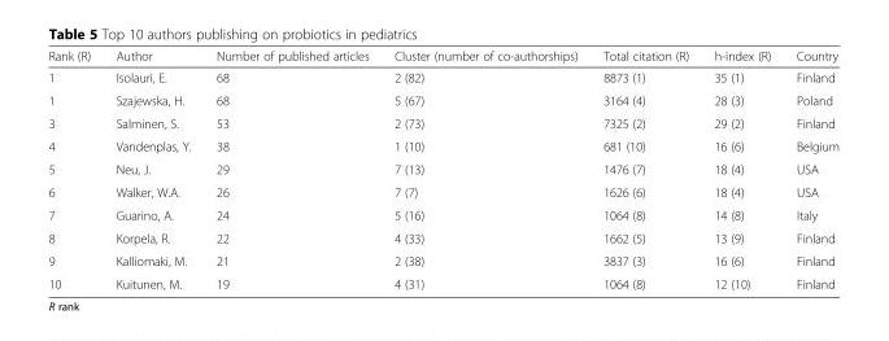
<table><thead><tr><td>Rank (R)</td><td>Author</td><td>Number of published articles</td><td>Cluster (number of co-authorships)</td><td>Total citation (R)</td><td>h-index (R)</td><td>Country</td></tr></thead><tbody><tr><td>1</td><td>Isolauri, E.</td><td>68</td><td>2 (82)</td><td>8873 (1)</td><td>35 (1)</td><td>Finland</td></tr><tr><td>1</td><td>Szajewska, H.</td><td>68</td><td>5 (67)</td><td>3164 (4)</td><td>28 (3)</td><td>Poland</td></tr><tr><td>3</td><td>Salminen, S.</td><td>53</td><td>2 (73)</td><td>7325 (2)</td><td>29 (2)</td><td>Finland</td></tr><tr><td>4</td><td>Vandenplas, Y.</td><td>38</td><td>1 (10)</td><td>681 (10)</td><td>16 (6)</td><td>Belgium</td></tr><tr><td>5</td><td>Neu, J.</td><td>29</td><td>7 (13)</td><td>1476 (7)</td><td>18 (4)</td><td>USA</td></tr><tr><td>6</td><td>Walker, W.A.</td><td>26</td><td>7 (7)</td><td>1626 (6)</td><td>18 (4)</td><td>USA</td></tr><tr><td>7</td><td>Guarino, A.</td><td>24</td><td>5 (16)</td><td>1064 (8)</td><td>14 (8)</td><td>Italy</td></tr><tr><td>8</td><td>Korpela, R.</td><td>22</td><td>4 (33)</td><td>1662 (5)</td><td>13 (9)</td><td>Finland</td></tr><tr><td>9</td><td>Kalliomaki, M.</td><td>21</td><td>2 (38)</td><td>3837 (3)</td><td>16 (6)</td><td>Finland</td></tr><tr><td>10</td><td>Kuitunen, M.</td><td>19</td><td>4 (31)</td><td>1064 (8)</td><td>12 (10)</td><td>Finland</td></tr></tbody></table>